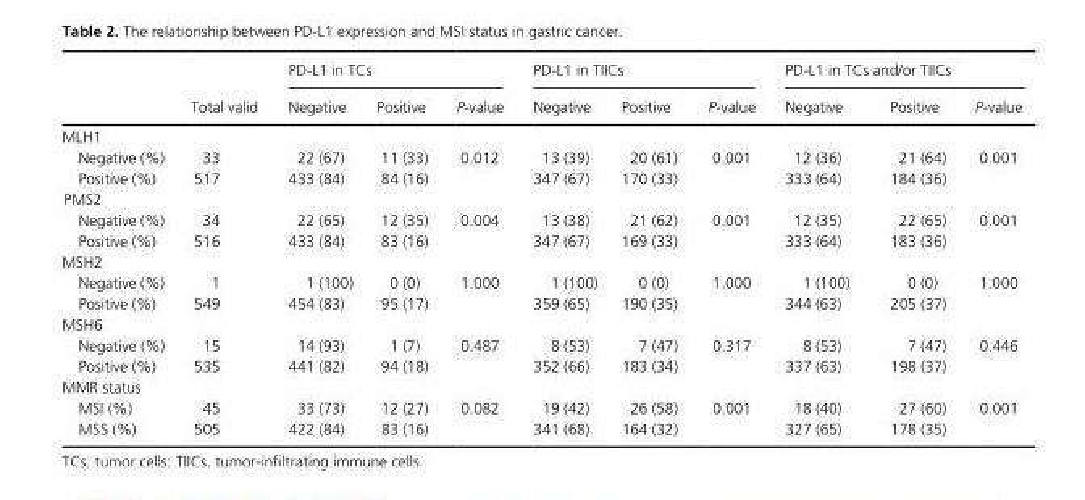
<table><thead><tr><td rowspan="2"></td><td rowspan="2">Total valid</td><td colspan="3">PD- L1 in TCs</td><td colspan="3">PD- L1 in TIICs</td><td colspan="3">PD- L1 in TCs and/or TIICs</td></tr><tr><td>Negative</td><td>Positive</td><td>P- value</td><td>Negative</td><td>Positive</td><td>P- value</td><td>Negative</td><td>Positive</td><td>P- value</td></tr></thead><tbody><tr><td colspan="11">MLH1</td></tr><tr><td>Negative (%)</td><td>33</td><td>22 (67)</td><td>11 (33)</td><td rowspan="2">0.012</td><td>13 (39)</td><td>20 (61)</td><td rowspan="2">0.001</td><td>12 (36)</td><td>21 (64)</td><td rowspan="2">0.001</td></tr><tr><td>Positive (%)</td><td>517</td><td>433 (84)</td><td>84 (16)</td><td>347 (67)</td><td>170 (33)</td><td>333 (64)</td><td>184 (36)</td></tr><tr><td colspan="11">PMS2</td></tr><tr><td>Negative (%)</td><td>34</td><td>22 (65)</td><td>12 (35)</td><td rowspan="2">0.004</td><td>13 (38)</td><td>21 (62)</td><td rowspan="2">0.001</td><td>12 (35)</td><td>22 (65)</td><td rowspan="2">0.001</td></tr><tr><td>Positive (%)</td><td>516</td><td>433 (84)</td><td>83 (16)</td><td>347 (67)</td><td>169 (33)</td><td>333 (64)</td><td>183 (36)</td></tr><tr><td colspan="11">MSH2</td></tr><tr><td>Negative (%)</td><td>1</td><td>1 (100)</td><td>0 (0)</td><td rowspan="2">1.000</td><td>1 (100)</td><td>0 (0)</td><td rowspan="2">1.000</td><td>1 (100)</td><td>0 (0)</td><td rowspan="2">1.000</td></tr><tr><td>Positive (%)</td><td>549</td><td>454 (83)</td><td>95 (17)</td><td>359 (65)</td><td>190 (35)</td><td>344 (63)</td><td>205 (37)</td></tr><tr><td colspan="11">MSH6</td></tr><tr><td>Negative (%)</td><td>15</td><td>14 (93)</td><td>1 (7)</td><td rowspan="2">0.487</td><td>8 (53)</td><td>7 (47)</td><td rowspan="2">0.317</td><td>8 (53)</td><td>7 (47)</td><td rowspan="2">0.446</td></tr><tr><td>Positive (%)</td><td>535</td><td>441 (82)</td><td>94 (18)</td><td>352 (66)</td><td>183 (34)</td><td>337 (63)</td><td>198 (37)</td></tr><tr><td colspan="11">MMR status</td></tr><tr><td>MSI (%)</td><td>45</td><td>33 (73)</td><td>12 (27)</td><td rowspan="2">0.082</td><td>19 (42)</td><td>26 (58)</td><td rowspan="2">0.001</td><td>18 (40)</td><td>27 (60)</td><td rowspan="2">0.001</td></tr><tr><td>MSS (%)</td><td>505</td><td>422 (84)</td><td>83 (16)</td><td>341 (68)</td><td>164 (32)</td><td>327 (65)</td><td>178 (35)</td></tr></tbody></table>